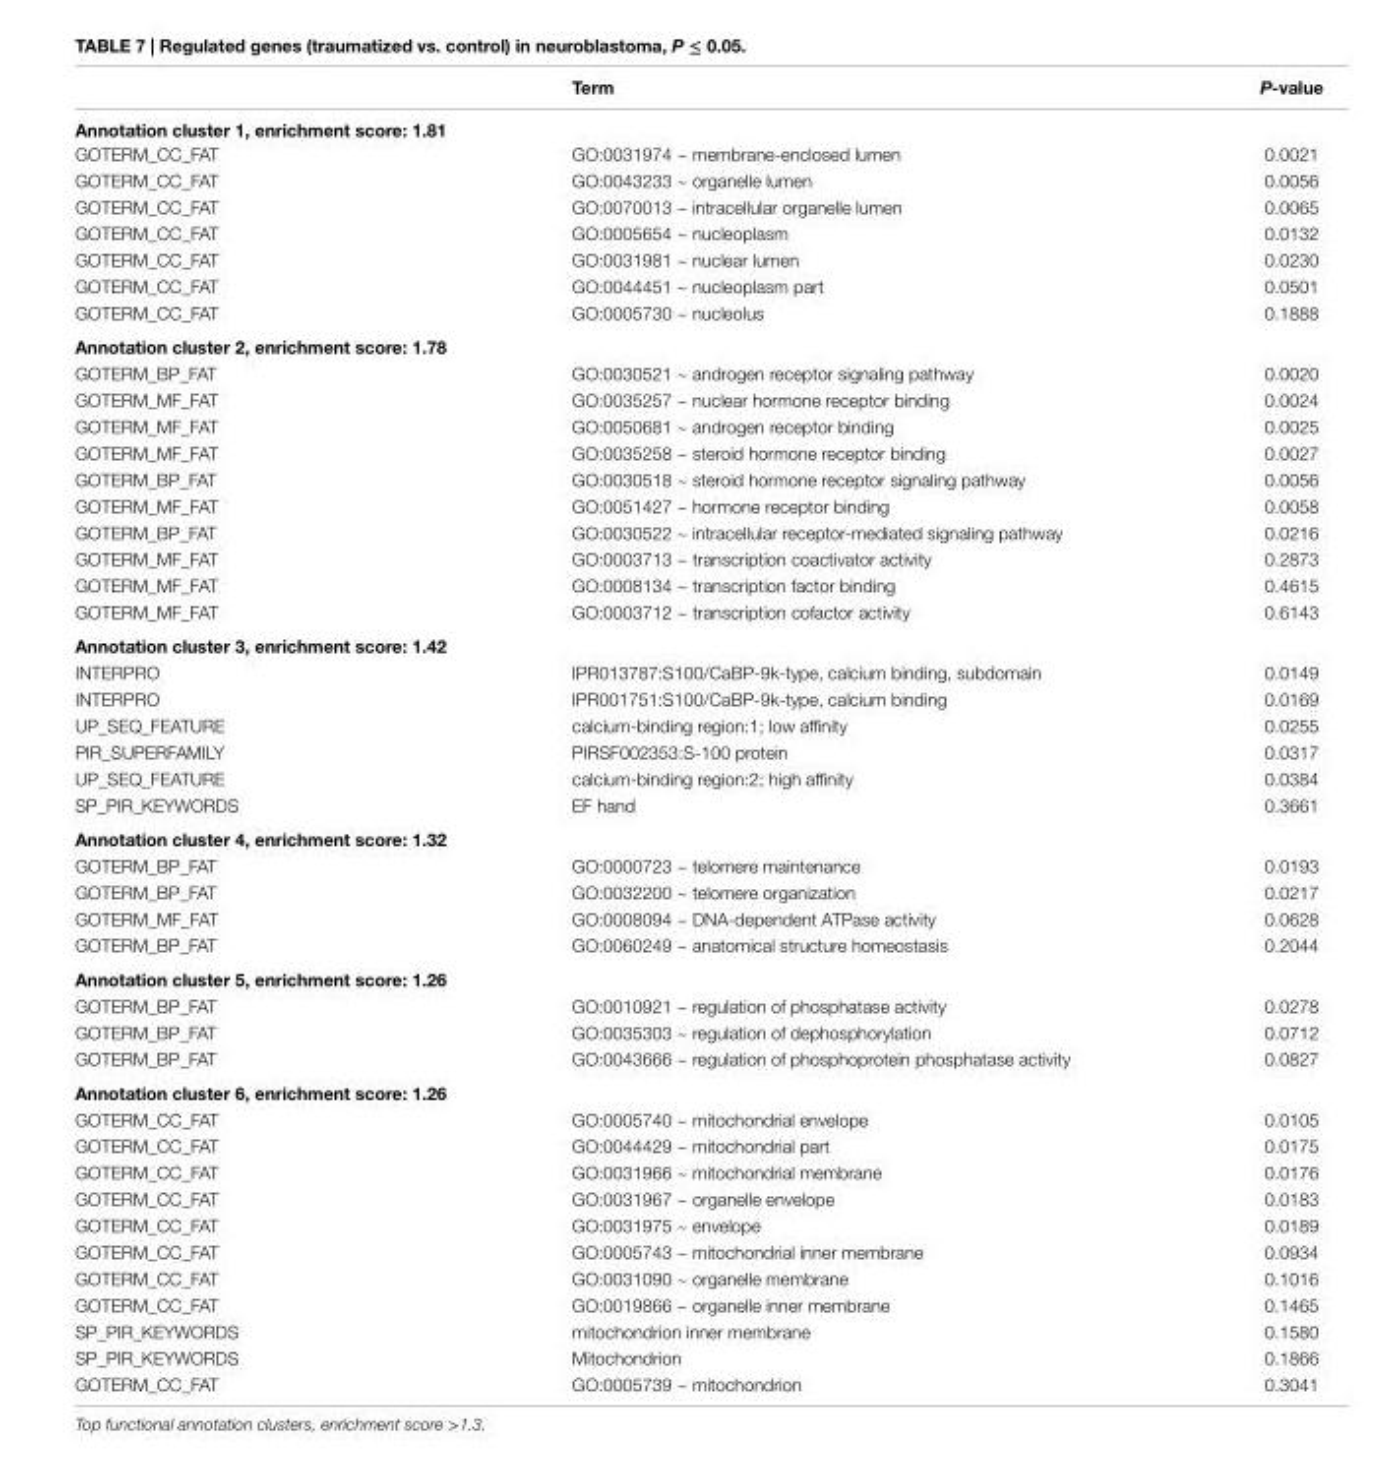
<table><thead><tr><td></td><td>Term</td><td>P-value</td></tr></thead><tbody><tr><td colspan="3">annotation cluster 1, enrichment score: 1.81</td></tr><tr><td>GOTERM_CC_FAT</td><td>GO:0031974 ~ membrane-enclosed lumen</td><td>0.0021</td></tr><tr><td>GOTERM_CC_FAT</td><td>GO:0043233 ~ organelle lumen</td><td>0.0056</td></tr><tr><td>GOTERM_CC_FAT</td><td>GO:0070013 ~ intracellular organelle lumen</td><td>0.0065</td></tr><tr><td>GOTERM_CC_FAT</td><td>GO:0005654 ~ nucleoplasm</td><td>0.0132</td></tr><tr><td>GOTERM_CC_FAT</td><td>GO:0031981 ~ nuclear lumen</td><td>0.0230</td></tr><tr><td>GOTERM_CC_FAT</td><td>GO:0044451 ~ nucleoplasm part</td><td>0.0501</td></tr><tr><td>GOTERM_CC_FAT</td><td>GO:0005730 ~ nucleolus</td><td>0.1888</td></tr><tr><td colspan="3">annotation cluster 2, enrichment score: 1.78</td></tr><tr><td>GOTERM_BP_FAT</td><td>GO:0030521 ~ androgen receptor signaling pathway</td><td>0.0020</td></tr><tr><td>GOTERM_MF_FAT</td><td>GO:0035257 ~ nuclear hormone receptor binding</td><td>0.0024</td></tr><tr><td>GOTERM_MF_FAT</td><td>GO:0050681 ~ androgen receptor binding</td><td>0.0025</td></tr><tr><td>GOTERM_MF_FAT</td><td>GO:0035258 ~ steroid hormone receptor binding</td><td>0.0027</td></tr><tr><td>GOTERM_BP_FAT</td><td>GO:0030518 ~ steroid hormone receptor signaling pathway</td><td>0.0056</td></tr><tr><td>GOTERM_MF_FAT</td><td>GO:0051427 ~ hormone receptor binding</td><td>0.0058</td></tr><tr><td>GOTERM_BP_FAT</td><td>GO:0030522 ~ intracellular receptor-mediated signaling pathway</td><td>0.0216</td></tr><tr><td>GOTERM_MF_FAT</td><td>GO:0003713 ~ transcription coactivator activity</td><td>0.2873</td></tr><tr><td>GOTERM_MF_FAT</td><td>GO:0008134 ~ transcription factor binding</td><td>0.4615</td></tr><tr><td>GOTERM_MF_FAT</td><td>GO:0003712 ~ transcription cofactor activity</td><td>0.6143</td></tr><tr><td colspan="3">annotation cluster 3, enrichment score: 1.42</td></tr><tr><td>INTERPRO</td><td>IPR013787:S100/CaBP-9k-type, calcium binding, subdomain</td><td>0.0149</td></tr><tr><td>INTERPRO</td><td>IPR001751:S100/CaBP-9k-type, calcium binding</td><td>0.0169</td></tr><tr><td>UP_SEQ_FEATURE</td><td>calcium-binding region:1; low affinity</td><td>0.0255</td></tr><tr><td>PIR_SUPERFAMILY</td><td>PIRSF002353:S-100 protein</td><td>0.0317</td></tr><tr><td>UP_SEQ_FEATURE</td><td>calcium-binding region:2; high affinity</td><td>0.0384</td></tr><tr><td>SP_PIR_KEYWORDS</td><td>EF hand</td><td>0.3661</td></tr><tr><td colspan="3">annotation cluster 4, enrichment score: 1.32</td></tr><tr><td>GOTERM_BP_FAT</td><td>GO:0000723 ~ telomere maintenance</td><td>0.0193</td></tr><tr><td>GOTERM_BP_FAT</td><td>GO:0032200 ~ telomere organization</td><td>0.0217</td></tr><tr><td>GOTERM_MF_FAT</td><td>GO:0008094 ~ DNA-dependent ATPase activity</td><td>0.0628</td></tr><tr><td>GOTERM_BP_FAT</td><td>GO:0060249 ~ anatomical structure homeostasis</td><td>0.2044</td></tr><tr><td colspan="3">annotation cluster 5, enrichment score: 1.26</td></tr><tr><td>GOTERM_BP_FAT</td><td>GO:0010921 ~ regulation of phosphatase activity</td><td>0.0278</td></tr><tr><td>GOTERM_BP_FAT</td><td>GO:0035303 ~ regulation of dephosphorylation</td><td>0.0712</td></tr><tr><td>GOTERM_BP_FAT</td><td>GO:0043666 ~ regulation of phosphoprotein phosphatase activity</td><td>0.0827</td></tr><tr><td colspan="3">annotation cluster 6, enrichment score: 1.26</td></tr><tr><td>GOTERM_CC_FAT</td><td>GO:0005740 ~ mitochondrial envelope</td><td>0.0105</td></tr><tr><td>GOTERM_CC_FAT</td><td>GO:0044429 ~ mitochondrial part</td><td>0.0175</td></tr><tr><td>GOTERM_CC_FAT</td><td>GO:0031966 ~ mitochondrial membrane</td><td>0.0176</td></tr><tr><td>GOTERM_CC_FAT</td><td>GO:0031967 ~ organelle envelope</td><td>0.0183</td></tr><tr><td>GOTERM_CC_FAT</td><td>GO:0031975 ~ envelope</td><td>0.0189</td></tr><tr><td>GOTERM_CC_FAT</td><td>GO:0005743 ~ mitochondrial inner membrane</td><td>0.0934</td></tr><tr><td>GOTERM_CC_FAT</td><td>GO:0031090 ~ organelle membrane</td><td>0.1016</td></tr><tr><td>GOTERM_CC_FAT</td><td>GO:0019866 ~ organelle inner membrane</td><td>0.1465</td></tr><tr><td>SP_PIR_KEYWORDS</td><td>mitochondrion inner membrane</td><td>0.1580</td></tr><tr><td>SP_PIR_KEYWORDS</td><td>Mitochondrion</td><td>0.1866</td></tr><tr><td>GOTERM_CC_FAT</td><td>GO:0005739 ~ mitochondrion</td><td>0.3041</td></tr></tbody></table>